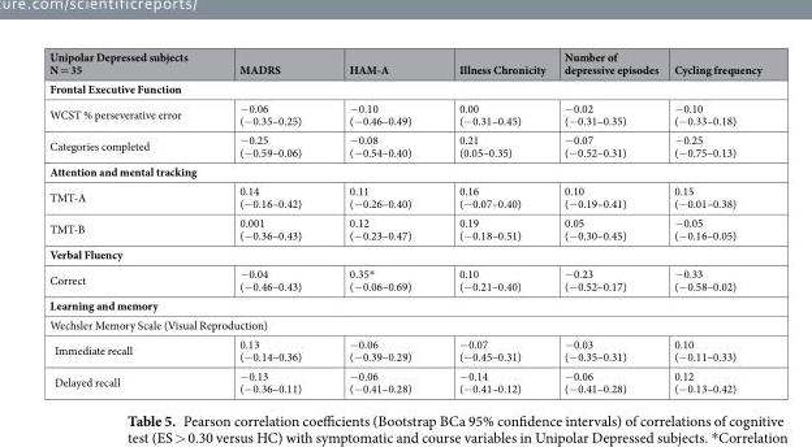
<table><thead><tr><td>Unipolar Depressed subjects N = 35</td><td>MADRS</td><td>HAM-A</td><td>Illness Chronicity</td><td>Number of depressive episodes</td><td>Cycling frequency</td></tr></thead><tbody><tr><td colspan="6">Frontal Executive Function</td></tr><tr><td>WCST % perseverative error</td><td>−0.06 (−0.35–0.25)</td><td>−0.10 (−0.46–0.49)</td><td>0.00 (−0.31–0.45)</td><td>−0.02 (−0.31–0.35)</td><td>−0.10 (−0.33–0.18)</td></tr><tr><td>Categories completed</td><td>−0.25 (−0.59–0.06)</td><td>−0.08 (−0.54–0.40)</td><td>0.21 (0.05–0.35)</td><td>−0.07 (−0.52–0.31)</td><td>−0.25 (−0.75–0.13)</td></tr><tr><td colspan="6">Attention and mental tracking</td></tr><tr><td>TMT-A</td><td>0.14 (−0.16–0.42)</td><td>0.11 (−0.26–0.40)</td><td>0.16 (−0.07–0.40)</td><td>0.10 (−0.19–0.41)</td><td>0.15 (−0.01–0.38)</td></tr><tr><td>TMT-B</td><td>0.001 (−0.36–0.43)</td><td>0.12 (−0.23–0.47)</td><td>0.19 (−0.18–0.51)</td><td>0.05 (−0.30–0.45)</td><td>−0.05 (−0.16–0.05)</td></tr><tr><td colspan="6">Verbal Fluency</td></tr><tr><td>Correct</td><td>−0.04 (−0.46–0.43)</td><td>0.35* (−0.06–0.69)</td><td>0.10 (−0.21–0.40)</td><td>−0.23 (−0.52–0.17)</td><td>−0.33 (−0.58–0.02)</td></tr><tr><td colspan="6">Learning and memory</td></tr><tr><td colspan="6">Wechsler Memory Scale (Visual Reproduction)</td></tr><tr><td>Immediate recall</td><td>0.13 (−0.14–0.36)</td><td>−0.06 (−0.39–0.29)</td><td>−0.07 (−0.45–0.31)</td><td>−0.03 (−0.35–0.31)</td><td>0.10 (−0.11–0.33)</td></tr><tr><td>Delayed recall</td><td>−0.13 (−0.36–0.11)</td><td>−0.06 (−0.41–0.28)</td><td>−0.14 (−0.41–0.12)</td><td>−0.06 (−0.41–0.28)</td><td>0.12 (−0.13–0.42)</td></tr></tbody></table>